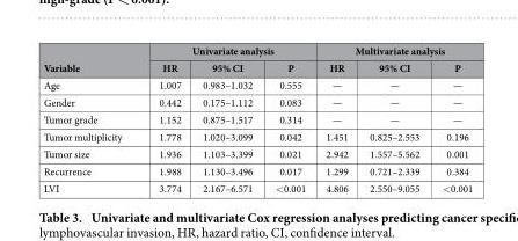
<table><thead><tr><td rowspan="2">Variable</td><td colspan="3">Univariate analysis</td><td colspan="3">Multivariate analysis</td></tr><tr><td>HR</td><td>95% CI</td><td>P</td><td>HR</td><td>95% CI</td><td>P</td></tr></thead><tbody><tr><td>Age</td><td>1.007</td><td>0.983–1.032</td><td>0.555</td><td>—</td><td>—</td><td>—</td></tr><tr><td>Gender</td><td>0.442</td><td>0.175–1.112</td><td>0.083</td><td>—</td><td>—</td><td>—</td></tr><tr><td>Tumor grade</td><td>1.152</td><td>0.875–1.517</td><td>0.314</td><td>—</td><td>—</td><td>—</td></tr><tr><td>Tumor multiplicity</td><td>1.778</td><td>1.020–3.099</td><td>0.042</td><td>1.451</td><td>0.825–2.553</td><td>0.196</td></tr><tr><td>Tumor size</td><td>1.936</td><td>1.103–3.399</td><td>0.021</td><td>2.942</td><td>1.557–5.562</td><td>0.001</td></tr><tr><td>Recurrence</td><td>1.988</td><td>1.130–3.496</td><td>0.017</td><td>1.299</td><td>0.721–2.339</td><td>0.384</td></tr><tr><td>LVI</td><td>3.774</td><td>2.167–6.571</td><td>&lt; 0.001</td><td>4.806</td><td>2.550–9.055</td><td>&lt; 0.001</td></tr></tbody></table>